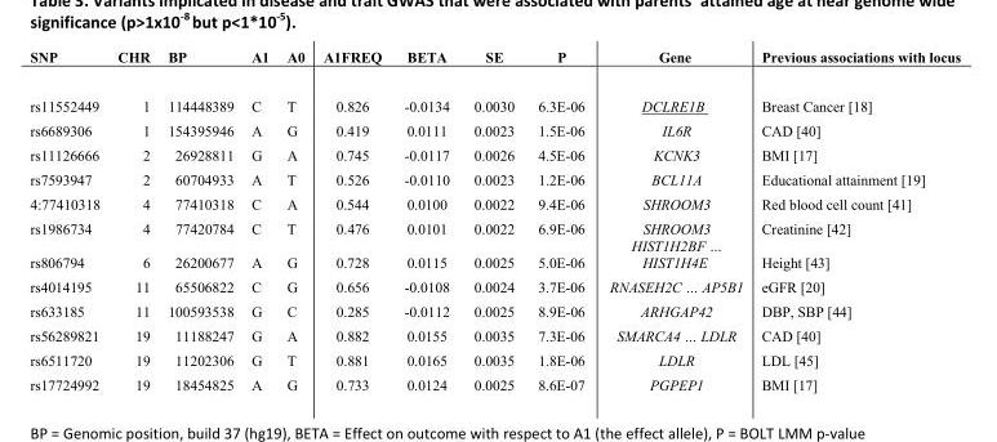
<table><thead><tr><td>SNP</td><td>CHR</td><td>BP</td><td>A1</td><td>A0</td><td>A1FREQ</td><td>BETA</td><td>SE</td><td>P</td><td>Gene</td><td>Previous associations with locus</td></tr></thead><tbody><tr><td>rs11552449</td><td>1</td><td>114448389</td><td>C</td><td>T</td><td>0.826</td><td>-0.0134</td><td>0.0030</td><td>6.3E-06</td><td>DCLRE1B</td><td>Breast Cancer [18]</td></tr><tr><td>rs6689306</td><td>1</td><td>154395946</td><td>A</td><td>G</td><td>0.419</td><td>0.0111</td><td>0.0023</td><td>1.5E-06</td><td>IL6R</td><td>CAD [40]</td></tr><tr><td>rs11126666</td><td>2</td><td>26928811</td><td>G</td><td>A</td><td>0.745</td><td>-0.0117</td><td>0.0026</td><td>4.5E-06</td><td>KCNK3</td><td>BMI [17]</td></tr><tr><td>rs7593947</td><td>2</td><td>60704933</td><td>A</td><td>T</td><td>0.526</td><td>-0.0110</td><td>0.0023</td><td>1.2E-06</td><td>BCL11A</td><td>Educational attainment [19]</td></tr><tr><td>4:77410318</td><td>4</td><td>77410318</td><td>C</td><td>A</td><td>0.544</td><td>0.0100</td><td>0.0022</td><td>9.4E-06</td><td>SHROOM3</td><td>Red blood cell count [41]</td></tr><tr><td>rs1986734</td><td>4</td><td>77420784</td><td>C</td><td>T</td><td>0.476</td><td>0.0101</td><td>0.0022</td><td>6.9E-06</td><td>SHROOM3</td><td>Creatinine [42]</td></tr><tr><td>rs806794</td><td>6</td><td>26200677</td><td>A</td><td>G</td><td>0.728</td><td>0.0115</td><td>0.0025</td><td>5.0E-06</td><td>HIST1H2BF … HIST1H4E</td><td>Height [43]</td></tr><tr><td>rs4014195</td><td>11</td><td>65506822</td><td>C</td><td>G</td><td>0.656</td><td>-0.0108</td><td>0.0024</td><td>3.7E-06</td><td>RNASEH2C … AP5B1</td><td>eGFR [20]</td></tr><tr><td>rs633185</td><td>11</td><td>100593538</td><td>G</td><td>C</td><td>0.285</td><td>-0.0112</td><td>0.0025</td><td>8.9E-06</td><td>ARHGAP42</td><td>DBP, SBP [44]</td></tr><tr><td>rs56289821</td><td>19</td><td>11188247</td><td>G</td><td>A</td><td>0.882</td><td>0.0155</td><td>0.0035</td><td>7.3E-06</td><td>SMARCA4 … LDLR</td><td>CAD [40]</td></tr><tr><td>rs6511720</td><td>19</td><td>11202306</td><td>G</td><td>T</td><td>0.881</td><td>0.0165</td><td>0.0035</td><td>1.8E-06</td><td>LDLR</td><td>LDL [45]</td></tr><tr><td>rs17724992</td><td>19</td><td>18454825</td><td>A</td><td>G</td><td>0.733</td><td>0.0124</td><td>0.0025</td><td>8.6E-07</td><td>PGPEP1</td><td>BMI [17]</td></tr></tbody></table>